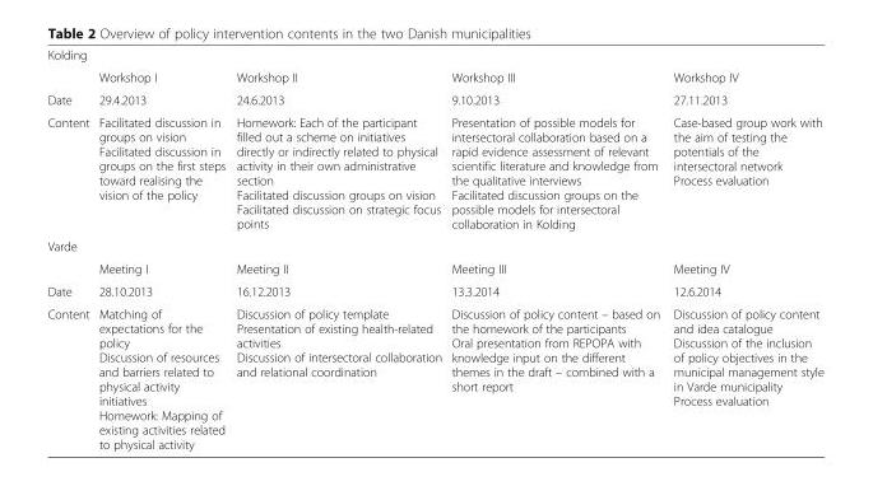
<table><tbody><tr><td colspan="5">Kolding</td></tr><tr><td></td><td>Workshop I</td><td>Workshop II</td><td>Workshop III</td><td>Workshop IV</td></tr><tr><td>Date</td><td>29.4.2013</td><td>24.6.2013</td><td>9.10.2013</td><td>27.11.2013</td></tr><tr><td>Content</td><td>Facilitated discussion in groups on vision Facilitated discussion in groups on the first steps toward realising the vision of the policy</td><td>Homework: Each of the participant filled out a scheme on initiatives directly or indirectly related to physical activity in their own administrative section Facilitated discussion groups on vision Facilitated discussion on strategic focus points</td><td>Presentation of possible models for intersectoral collaboration based on a rapid evidence assessment of relevant scientific literature and knowledge from the qualitative interviews Facilitated discussion groups on the possible models for intersectoral collaboration in Kolding</td><td>Case-based group work with the aim of testing the potentials of the intersectoral network Process evaluation</td></tr><tr><td colspan="5">Varde</td></tr><tr><td></td><td>Meeting I</td><td>Meeting II</td><td>Meeting III</td><td>Meeting IV</td></tr><tr><td>Date</td><td>28.10.2013</td><td>16.12.2013</td><td>13.3.2014</td><td>12.6.2014</td></tr><tr><td>Content</td><td>Matching of expectations for the policy Discussion of resources and barriers related to physical activity initiatives Homework: Mapping of existing activities related to physical activity</td><td>Discussion of policy template Presentation of existing health-related activities Discussion of intersectoral collaboration and relational coordination</td><td>Discussion of policy content – based on the homework of the participants Oral presentation from REPOPA with knowledge input on the different themes in the draft – combined with a short report</td><td>Discussion of policy content and idea catalogue Discussion of the inclusion of policy objectives in the municipal management style in Varde municipality Process evaluation</td></tr></tbody></table>